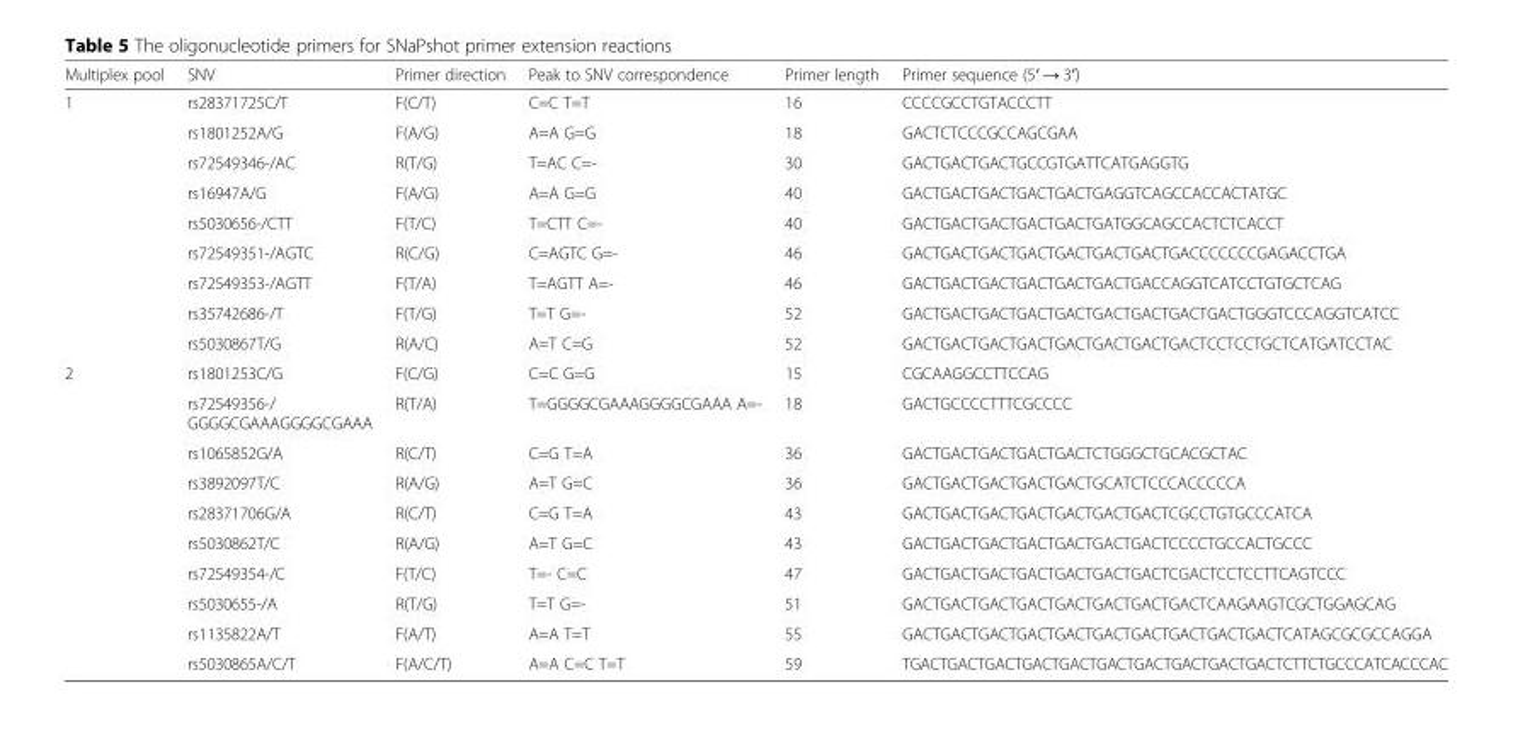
<table><thead><tr><td>Multiplex pool</td><td>SNV</td><td>Primer direction</td><td>Peak to SNV correspondence</td><td>Primer length</td><td>Primer sequence (5′ → 3′)</td></tr></thead><tbody><tr><td rowspan="9">1</td><td>rs28371725C/T</td><td>F(C/T)</td><td>C=C T=T</td><td>16</td><td>CCCCGCCTGTACCCTT</td></tr><tr><td>rs1801252A/G</td><td>F(A/G)</td><td>A=A G=G</td><td>18</td><td>GACTCTCCCGCCAGCGAA</td></tr><tr><td>rs72549346-/AC</td><td>R(T/G)</td><td>T=AC C=-</td><td>30</td><td>GACTGACTGACTGCCGTGATTCATGAGGTG</td></tr><tr><td>rs16947A/G</td><td>F(A/G)</td><td>A=A G=G</td><td>40</td><td>GACTGACTGACTGACTGACTGAGGTCAGCCACCACTATGC</td></tr><tr><td>rs5030656-/CTT</td><td>F(T/C)</td><td>T=CTT C=-</td><td>40</td><td>GACTGACTGACTGACTGACTGATGGCAGCCACTCTCACCT</td></tr><tr><td>rs72549351-/AGTC</td><td>R(C/G)</td><td>C=AGTC G=-</td><td>46</td><td>GACTGACTGACTGACTGACTGACTGACTGACCCCCCCGAGACCTGA</td></tr><tr><td>rs72549353-/AGTT</td><td>F(T/A)</td><td>T=AGTT A=-</td><td>46</td><td>GACTGACTGACTGACTGACTGACTGACCAGGTCATCCTGTGCTCAG</td></tr><tr><td>rs35742686-/T</td><td>F(T/G)</td><td>T=T G=-</td><td>52</td><td>GACTGACTGACTGACTGACTGACTGACTGACTGACTGGGTCCCAGGTCATCC</td></tr><tr><td>rs5030867T/G</td><td>R(A/C)</td><td>A=T C=G</td><td>52</td><td>GACTGACTGACTGACTGACTGACTGACTGACTCCTCCTGCTCATGATCCTAC</td></tr><tr><td rowspan="10">2</td><td>rs1801253C/G</td><td>F(C/G)</td><td>C=C G=G</td><td>15</td><td>CGCAAGGCCTTCCAG</td></tr><tr><td>rs72549356-/ GGGGCGAAAGGGGCGAAA</td><td>R(T/A)</td><td>T=GGGGCGAAAGGGGCGAAA A=-</td><td>18</td><td>GACTGCCCCTTTCGCCCC</td></tr><tr><td>rs1065852G/A</td><td>R(C/T)</td><td>C=G T=A</td><td>36</td><td>GACTGACTGACTGACTGACTCTGGGCTGCACGCTAC</td></tr><tr><td>rs3892097T/C</td><td>R(A/G)</td><td>A=T G=C</td><td>36</td><td>GACTGACTGACTGACTGACTGCATCTCCCACCCCCA</td></tr><tr><td>rs28371706G/A</td><td>R(C/T)</td><td>C=G T=A</td><td>43</td><td>GACTGACTGACTGACTGACTGACTGACTCGCCTGTGCCCATCA</td></tr><tr><td>rs5030862T/C</td><td>R(A/G)</td><td>A=T G=C</td><td>43</td><td>GACTGACTGACTGACTGACTGACTGACTCCCCTGCCACTGCCC</td></tr><tr><td>rs72549354-/C</td><td>F(T/C)</td><td>T=- C=C</td><td>47</td><td>GACTGACTGACTGACTGACTGACTGACTCGACTCCTCCTTCAGTCCC</td></tr><tr><td>rs5030655-/A</td><td>R(T/G)</td><td>T=T G=-</td><td>51</td><td>GACTGACTGACTGACTGACTGACTGACTGACTCAAGAAGTCGCTGGAGCAG</td></tr><tr><td>rs1135822A/T</td><td>F(A/T)</td><td>A=A T=T</td><td>55</td><td>GACTGACTGACTGACTGACTGACTGACTGACTGACTGACTCATAGCGCGCCAGGA</td></tr><tr><td>rs5030865A/C/T</td><td>F(A/C/T)</td><td>A=A C=C T=T</td><td>59</td><td>TGACTGACTGACTGACTGACTGACTGACTGACTGACTGACTCTTCTGCCCATCACCCAC</td></tr></tbody></table>